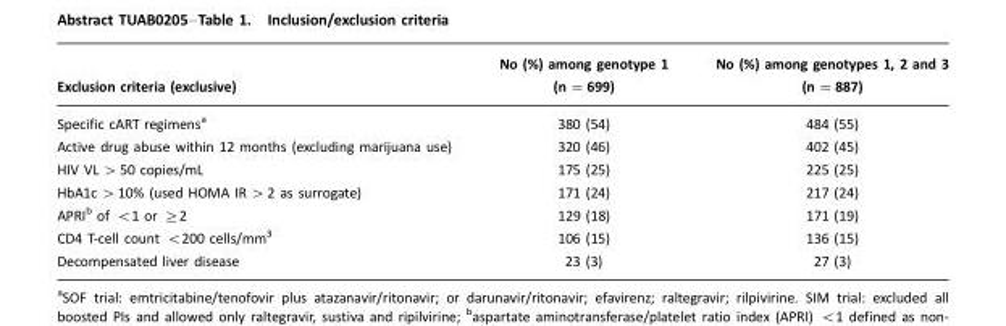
<table><thead><tr><td>Exclusion criteria (exclusive)</td><td>No (%) among genotype 1 (n =699)</td><td>No (%) among genotypes 1, 2 and 3 (n =887)</td></tr></thead><tbody><tr><td>Specific cART regimensa</td><td>380 (54)</td><td>484 (55)</td></tr><tr><td>Active drug abuse within 12 months (excluding marijuana use)</td><td>320 (46)</td><td>402 (45)</td></tr><tr><td>HIV VL &gt;50 copies/mL</td><td>175 (25)</td><td>225 (25)</td></tr><tr><td>HbA1c &gt;10% (used HOMA IR &gt;2 as surrogate)</td><td>171 (24)</td><td>217 (24)</td></tr><tr><td>APRIb of &lt;1 or ≥2</td><td>129 (18)</td><td>171 (19)</td></tr><tr><td>CD4 T-cell count &lt;200 cells/mm3</td><td>106 (15)</td><td>136 (15)</td></tr><tr><td>Decompensated liver disease</td><td>23 (3)</td><td>27 (3)</td></tr></tbody></table>